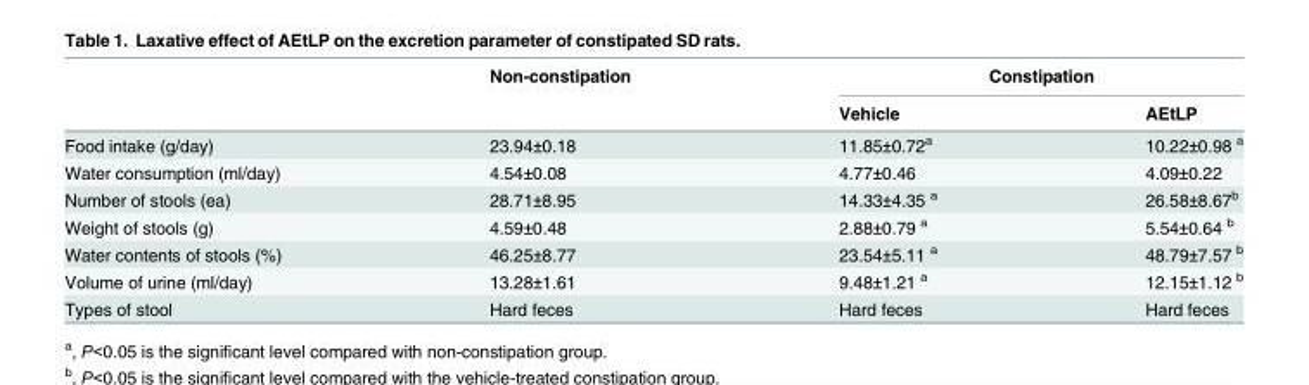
<table><thead><tr><td rowspan="2"></td><td rowspan="2">Non-constipation</td><td colspan="2">Constipation</td></tr><tr><td>Vehicle</td><td>AEtLP</td></tr></thead><tbody><tr><td>Food intake (g/day)</td><td>23.94±0.18</td><td>11.85±0.72<sup>a</sup></td><td>10.22±0.98 <sup>a</sup></td></tr><tr><td>Water consumption (ml/day)</td><td>4.54±0.08</td><td>4.77±0.46</td><td>4.09±0.22</td></tr><tr><td>Number of stools (ea)</td><td>28.71±8.95</td><td>14.33±4.35 <sup>a</sup></td><td>26.58±8.67<sup>b</sup></td></tr><tr><td>Weight of stools (g)</td><td>4.59±0.48</td><td>2.88±0.79 <sup>a</sup></td><td>5.54±0.64 <sup>b</sup></td></tr><tr><td>Water contents of stools (%)</td><td>46.25±8.77</td><td>23.54±5.11 <sup>a</sup></td><td>48.79±7.57 <sup>b</sup></td></tr><tr><td>Volume of urine (ml/day)</td><td>13.28±1.61</td><td>9.48±1.21 <sup>a</sup></td><td>12.15±1.12 <sup>b</sup></td></tr><tr><td>Types of stool</td><td>Hard feces</td><td>Hard feces</td><td>Hard feces</td></tr></tbody></table>